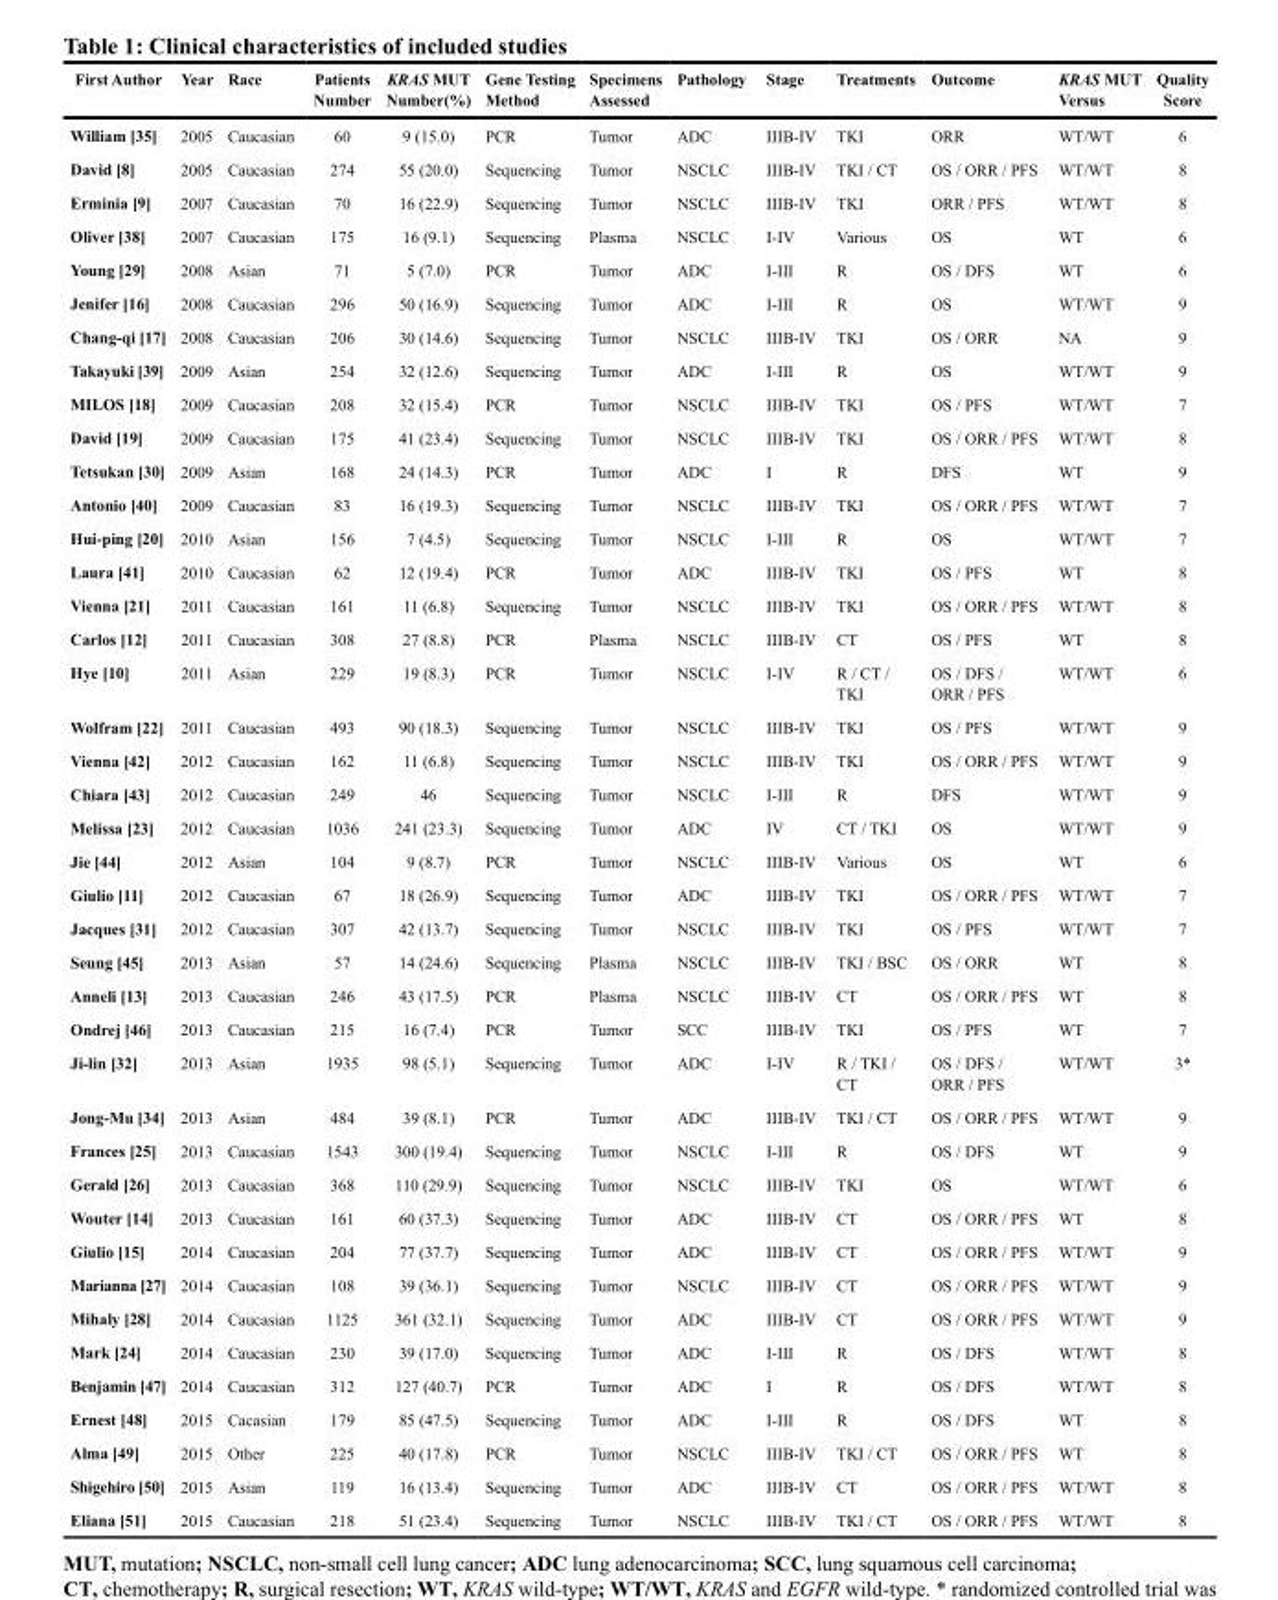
<table><thead><tr><td>First Author</td><td>Year</td><td>Race</td><td>Patients Number</td><td>KRAS MUT Number(%)</td><td>Gene Testing Method</td><td>Specimens Assessed</td><td>Pathology</td><td>Stage</td><td>Treatments</td><td>Outcome</td><td>KRAS MUT Versus</td><td>Quality Score</td></tr></thead><tbody><tr><td>William [35]</td><td>2005</td><td>Caucasian</td><td>60</td><td>9 (15.0)</td><td>PCR</td><td>Tumor</td><td>ADC</td><td>IIIB-IV</td><td>TKI</td><td>ORR</td><td>WT/WT</td><td>6</td></tr><tr><td>David [8]</td><td>2005</td><td>Caucasian</td><td>274</td><td>55 (20.0)</td><td>Sequencing</td><td>Tumor</td><td>NSCLC</td><td>IIIB-IV</td><td>TKI / CT</td><td>OS / ORR / PFS</td><td>WT/WT</td><td>8</td></tr><tr><td>Erminia [9]</td><td>2007</td><td>Caucasian</td><td>70</td><td>16 (22.9)</td><td>Sequencing</td><td>Tumor</td><td>NSCLC</td><td>IIIB-IV</td><td>TKI</td><td>ORR / PFS</td><td>WT/WT</td><td>8</td></tr><tr><td>Oliver [38]</td><td>2007</td><td>Caucasian</td><td>175</td><td>16 (9.1)</td><td>Sequencing</td><td>Plasma</td><td>NSCLC</td><td>I-IV</td><td>Various</td><td>OS</td><td>WT</td><td>6</td></tr><tr><td>Young [29]</td><td>2008</td><td>Asian</td><td>71</td><td>5 (7.0)</td><td>PCR</td><td>Tumor</td><td>ADC</td><td>I-III</td><td>R</td><td>OS / DFS</td><td>WT</td><td>6</td></tr><tr><td>Jenifer [16]</td><td>2008</td><td>Caucasian</td><td>296</td><td>50 (16.9)</td><td>Sequencing</td><td>Tumor</td><td>ADC</td><td>I-III</td><td>R</td><td>OS</td><td>WT/WT</td><td>9</td></tr><tr><td>Chang-qi [17]</td><td>2008</td><td>Caucasian</td><td>206</td><td>30 (14.6)</td><td>Sequencing</td><td>Tumor</td><td>NSCLC</td><td>IIIB-IV</td><td>TKI</td><td>OS / ORR</td><td>NA</td><td>9</td></tr><tr><td>Takayuki [39]</td><td>2009</td><td>Asian</td><td>254</td><td>32 (12.6)</td><td>Sequencing</td><td>Tumor</td><td>ADC</td><td>I-III</td><td>R</td><td>OS</td><td>WT/WT</td><td>9</td></tr><tr><td>MILOS [18]</td><td>2009</td><td>Caucasian</td><td>208</td><td>32 (15.4)</td><td>PCR</td><td>Tumor</td><td>NSCLC</td><td>IIIB-IV</td><td>TKI</td><td>OS / PFS</td><td>WT/WT</td><td>7</td></tr><tr><td>David [19]</td><td>2009</td><td>Caucasian</td><td>175</td><td>41 (23.4)</td><td>Sequencing</td><td>Tumor</td><td>NSCLC</td><td>IIIB-IV</td><td>TKI</td><td>OS / ORR / PFS</td><td>WT/WT</td><td>8</td></tr><tr><td>Tetsukan [30]</td><td>2009</td><td>Asian</td><td>168</td><td>24 (14.3)</td><td>PCR</td><td>Tumor</td><td>ADC</td><td>I</td><td>R</td><td>DFS</td><td>WT</td><td>9</td></tr><tr><td>Antonio [40]</td><td>2009</td><td>Caucasian</td><td>83</td><td>16 (19.3)</td><td>Sequencing</td><td>Tumor</td><td>NSCLC</td><td>IIIB-IV</td><td>TKI</td><td>OS / ORR / PFS</td><td>WT/WT</td><td>7</td></tr><tr><td>Hui-ping [20]</td><td>2010</td><td>Asian</td><td>156</td><td>7 (4.5)</td><td>Sequencing</td><td>Tumor</td><td>NSCLC</td><td>I-III</td><td>R</td><td>OS</td><td>WT/WT</td><td>7</td></tr><tr><td>Laura [41]</td><td>2010</td><td>Caucasian</td><td>62</td><td>12 (19.4)</td><td>PCR</td><td>Tumor</td><td>ADC</td><td>IIIB-IV</td><td>TKI</td><td>OS / PFS</td><td>WT</td><td>8</td></tr><tr><td>Vienna [21]</td><td>2011</td><td>Caucasian</td><td>161</td><td>11 (6.8)</td><td>Sequencing</td><td>Tumor</td><td>NSCLC</td><td>IIIB-IV</td><td>TKI</td><td>OS / ORR / PFS</td><td>WT/WT</td><td>8</td></tr><tr><td>Carlos [12]</td><td>2011</td><td>Caucasian</td><td>308</td><td>27 (8.8)</td><td>PCR</td><td>Plasma</td><td>NSCLC</td><td>IIIB-IV</td><td>CT</td><td>OS / PFS</td><td>WT</td><td>8</td></tr><tr><td>Hye [10]</td><td>2011</td><td>Asian</td><td>229</td><td>19 (8.3)</td><td>PCR</td><td>Tumor</td><td>NSCLC</td><td>I-IV</td><td>R / CT / TKI</td><td>OS / DFS / ORR / PFS</td><td>WT/WT</td><td>6</td></tr><tr><td>Wolfram [22]</td><td>2011</td><td>Caucasian</td><td>493</td><td>90 (18.3)</td><td>Sequencing</td><td>Tumor</td><td>NSCLC</td><td>IIIB-IV</td><td>TKI</td><td>OS / PFS</td><td>WT/WT</td><td>9</td></tr><tr><td>Vienna [42]</td><td>2012</td><td>Caucasian</td><td>162</td><td>11 (6.8)</td><td>Sequencing</td><td>Tumor</td><td>NSCLC</td><td>IIIB-IV</td><td>TKI</td><td>OS / ORR / PFS</td><td>WT/WT</td><td>9</td></tr><tr><td>Chiara [43]</td><td>2012</td><td>Caucasian</td><td>249</td><td>46</td><td>Sequencing</td><td>Tumor</td><td>NSCLC</td><td>I-III</td><td>R</td><td>DFS</td><td>WT/WT</td><td>9</td></tr><tr><td>Melissa [23]</td><td>2012</td><td>Caucasian</td><td>1036</td><td>241 (23.3)</td><td>Sequencing</td><td>Tumor</td><td>ADC</td><td>IV</td><td>CT / TKI</td><td>OS</td><td>WT/WT</td><td>9</td></tr><tr><td>Jie [44]</td><td>2012</td><td>Asian</td><td>104</td><td>9 (8.7)</td><td>PCR</td><td>Tumor</td><td>NSCLC</td><td>IIIB-IV</td><td>Various</td><td>OS</td><td>WT</td><td>6</td></tr><tr><td>Giulio [11]</td><td>2012</td><td>Caucasian</td><td>67</td><td>18 (26.9)</td><td>Sequencing</td><td>Tumor</td><td>ADC</td><td>IIIB-IV</td><td>TKI</td><td>OS / ORR / PFS</td><td>WT/WT</td><td>7</td></tr><tr><td>Jacques [31]</td><td>2012</td><td>Caucasian</td><td>307</td><td>42 (13.7)</td><td>Sequencing</td><td>Tumor</td><td>NSCLC</td><td>IIIB-IV</td><td>TKI</td><td>OS / PFS</td><td>WT/WT</td><td>7</td></tr><tr><td>Seung [45]</td><td>2013</td><td>Asian</td><td>57</td><td>14 (24.6)</td><td>Sequencing</td><td>Plasma</td><td>NSCLC</td><td>IIIB-IV</td><td>TKI / BSC</td><td>OS / ORR</td><td>WT</td><td>8</td></tr><tr><td>Anneli [13]</td><td>2013</td><td>Caucasian</td><td>246</td><td>43 (17.5)</td><td>PCR</td><td>Plasma</td><td>NSCLC</td><td>IIIB-IV</td><td>CT</td><td>OS / ORR / PFS</td><td>WT</td><td>8</td></tr><tr><td>Ondrej [46]</td><td>2013</td><td>Caucasian</td><td>215</td><td>16 (7.4)</td><td>PCR</td><td>Tumor</td><td>SCC</td><td>IIIB-IV</td><td>TKI</td><td>OS / PFS</td><td>WT</td><td>7</td></tr><tr><td>Ji-lin [32]</td><td>2013</td><td>Asian</td><td>1935</td><td>98 (5.1)</td><td>Sequencing</td><td>Tumor</td><td>ADC</td><td>I-IV</td><td>R / TKI / CT</td><td>OS / DFS / ORR / PFS</td><td>WT/WT</td><td>3*</td></tr><tr><td>Jong-Mu [34]</td><td>2013</td><td>Asian</td><td>484</td><td>39 (8.1)</td><td>PCR</td><td>Tumor</td><td>ADC</td><td>IIIB-IV</td><td>TKI / CT</td><td>OS / ORR / PFS</td><td>WT/WT</td><td>9</td></tr><tr><td>Frances [25]</td><td>2013</td><td>Caucasian</td><td>1543</td><td>300 (19.4)</td><td>Sequencing</td><td>Tumor</td><td>NSCLC</td><td>I-III</td><td>R</td><td>OS / DFS</td><td>WT</td><td>9</td></tr><tr><td>Gerald [26]</td><td>2013</td><td>Caucasian</td><td>368</td><td>110 (29.9)</td><td>Sequencing</td><td>Tumor</td><td>NSCLC</td><td>IIIB-IV</td><td>TKI</td><td>OS</td><td>WT/WT</td><td>6</td></tr><tr><td>Wouter [14]</td><td>2013</td><td>Caucasian</td><td>161</td><td>60 (37.3)</td><td>Sequencing</td><td>Tumor</td><td>ADC</td><td>IIIB-IV</td><td>CT</td><td>OS / ORR / PFS</td><td>WT</td><td>8</td></tr><tr><td>Giulio [15]</td><td>2014</td><td>Caucasian</td><td>204</td><td>77 (37.7)</td><td>Sequencing</td><td>Tumor</td><td>ADC</td><td>IIIB-IV</td><td>CT</td><td>OS / ORR / PFS</td><td>WT/WT</td><td>9</td></tr><tr><td>Marianna [27]</td><td>2014</td><td>Caucasian</td><td>108</td><td>39 (36.1)</td><td>Sequencing</td><td>Tumor</td><td>NSCLC</td><td>IIIB-IV</td><td>CT</td><td>OS / ORR / PFS</td><td>WT/WT</td><td>9</td></tr><tr><td>Mihaly [28]</td><td>2014</td><td>Caucasian</td><td>1125</td><td>361 (32.1)</td><td>Sequencing</td><td>Tumor</td><td>ADC</td><td>IIIB-IV</td><td>CT</td><td>OS / ORR / PFS</td><td>WT/WT</td><td>9</td></tr><tr><td>Mark [24]</td><td>2014</td><td>Caucasian</td><td>230</td><td>39 (17.0)</td><td>Sequencing</td><td>Tumor</td><td>ADC</td><td>I-III</td><td>R</td><td>OS / DFS</td><td>WT/WT</td><td>8</td></tr><tr><td>Benjamin [47]</td><td>2014</td><td>Caucasian</td><td>312</td><td>127 (40.7)</td><td>PCR</td><td>Tumor</td><td>ADC</td><td>I</td><td>R</td><td>OS / DFS</td><td>WT/WT</td><td>8</td></tr><tr><td>Ernest [48]</td><td>2015</td><td>Cacasian</td><td>179</td><td>85 (47.5)</td><td>Sequencing</td><td>Tumor</td><td>ADC</td><td>I-III</td><td>R</td><td>OS / DFS</td><td>WT</td><td>8</td></tr><tr><td>Alma [49]</td><td>2015</td><td>Other</td><td>225</td><td>40 (17.8)</td><td>PCR</td><td>Tumor</td><td>NSCLC</td><td>IIIB-IV</td><td>TKI / CT</td><td>OS / ORR / PFS</td><td>WT</td><td>8</td></tr><tr><td>Shigehiro [50]</td><td>2015</td><td>Asian</td><td>119</td><td>16 (13.4)</td><td>Sequencing</td><td>Tumor</td><td>ADC</td><td>IIIB-IV</td><td>CT</td><td>OS / ORR / PFS</td><td>WT/WT</td><td>8</td></tr><tr><td>Eliana [51]</td><td>2015</td><td>Caucasian</td><td>218</td><td>51 (23.4)</td><td>Sequencing</td><td>Tumor</td><td>NSCLC</td><td>IIIB-IV</td><td>TKI / CT</td><td>OS / ORR / PFS</td><td>WT/WT</td><td>8</td></tr></tbody></table>